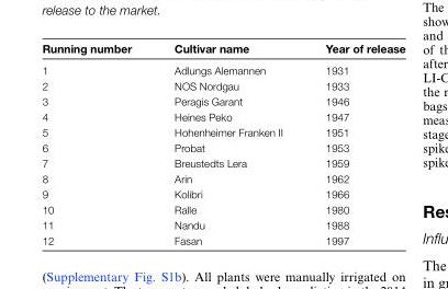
<table><thead><tr><td>Running number</td><td>Cultivar name</td><td>Year of release</td></tr></thead><tbody><tr><td>1</td><td>Adlungs Alemannen</td><td>1931</td></tr><tr><td>2</td><td>NOS Nordgau</td><td>1933</td></tr><tr><td>3</td><td>Peragis Garant</td><td>1946</td></tr><tr><td>4</td><td>Heines Peko</td><td>1947</td></tr><tr><td>5</td><td>Hohenheimer Franken II</td><td>1951</td></tr><tr><td>6</td><td>Probat</td><td>1953</td></tr><tr><td>7</td><td>Breustedts Lera</td><td>1959</td></tr><tr><td>8</td><td>Arin</td><td>1962</td></tr><tr><td>9</td><td>Kolibri</td><td>1966</td></tr><tr><td>10</td><td>Ralle</td><td>1980</td></tr><tr><td>11</td><td>Nandu</td><td>1988</td></tr><tr><td>12</td><td>Fasan</td><td>1997</td></tr></tbody></table>